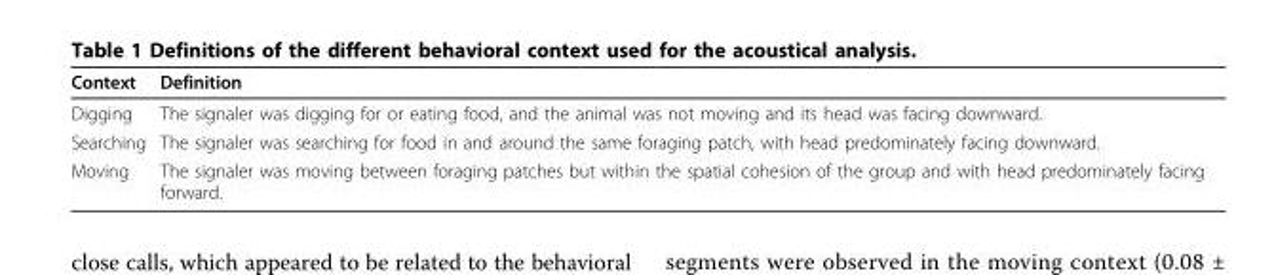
<table><thead><tr><td>Context</td><td>Definition</td></tr></thead><tbody><tr><td>Digging</td><td>The signaler was digging for or eating food, and the animal was not moving and its head was facing downward.</td></tr><tr><td>Searching</td><td>The signaler was searching for food in and around the same foraging patch, with head predominately facing downward.</td></tr><tr><td>Moving</td><td>The signaler was moving between foraging patches but within the spatial cohesion of the group and with head predominately facing forward.</td></tr></tbody></table>